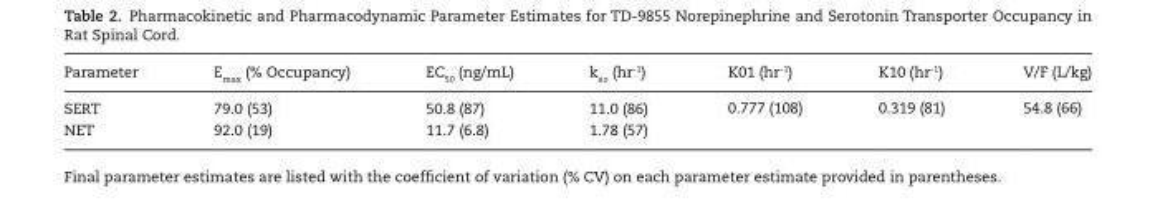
<table><thead><tr><td>Parameter</td><td>E<sub>max</sub> (% Occupancy)</td><td>EC<sub>50</sub> (ng/mL)</td><td>k<sub>eo</sub> (hr<sup>-1</sup>)</td><td>K01 (hr<sup>-1</sup>)</td><td>K10 (hr<sup>-1</sup>)</td><td>V/F (L/kg)</td></tr></thead><tbody><tr><td>SERT</td><td>79.0 (53)</td><td>50.8 (87)</td><td>11.0 (86)</td><td rowspan="2">0.777 (108)</td><td rowspan="2">0.319 (81)</td><td rowspan="2">54.8 (66)</td></tr><tr><td>NET</td><td>92.0 (19)</td><td>11.7 (6.8)</td><td>1.78 (57)</td></tr></tbody></table>